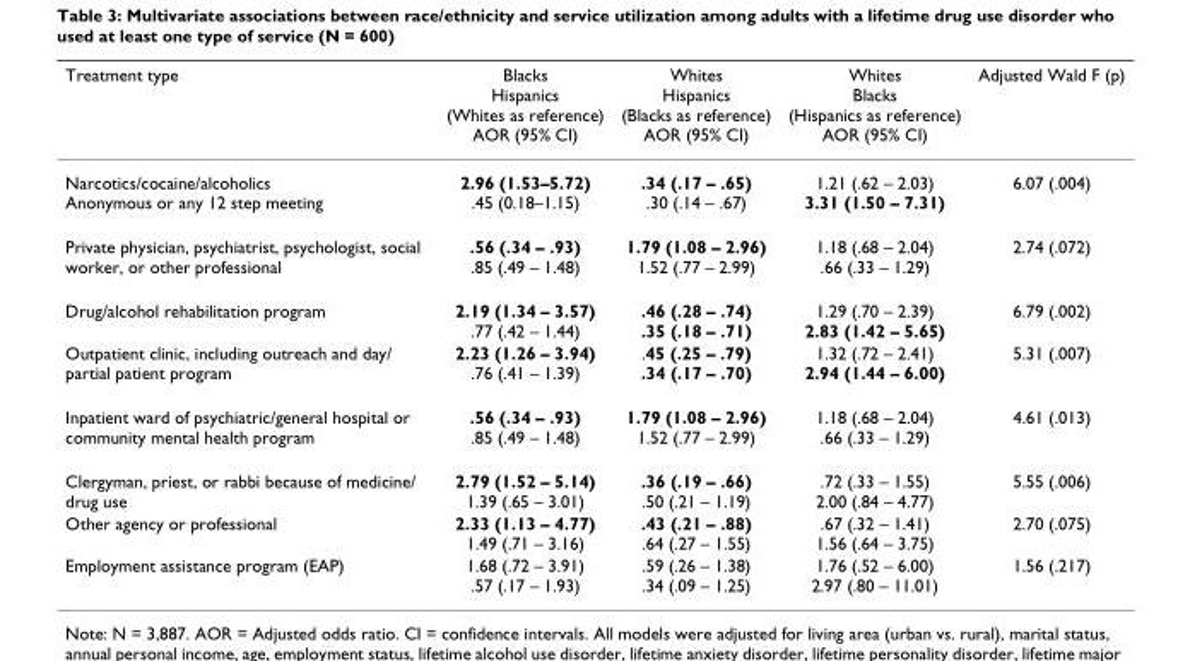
<table><thead><tr><td>Treatment type</td><td>Blacks Hispanics (Whites as reference) AOR (95% CI)</td><td>Whites Hispanics (Blacks as reference) AOR (95% CI)</td><td>Whites Blacks (Hispanics as reference) AOR (95% CI)</td><td>Adjusted Wald F (p)</td></tr></thead><tbody><tr><td>Narcotics/cocaine/alcoholics Anonymous or any 12 step meeting</td><td>2.96 (1.53–5.72) .45 (0.18–1.15)</td><td>.34 (.17 – .65) .30 (.14 – .67)</td><td>1.21 (.62 – 2.03) 3.31 (1.50 – 7.31)</td><td>6.07 (.004)</td></tr><tr><td>Private physician, psychiatrist, psychologist, social worker, or other professional</td><td>.56 (.34 – .93) .85 (.49 – 1.48)</td><td>1.79 (1.08 – 2.96) 1.52 (.77 – 2.99)</td><td>1.18 (.68 – 2.04) .66 (.33 – 1.29)</td><td>2.74 (.072)</td></tr><tr><td>Drug/alcohol rehabilitation program</td><td>2.19 (1.34 – 3.57) .77 (.42 – 1.44)</td><td>.46 (.28 – .74) .35 (.18 – .71)</td><td>1.29 (.70 – 2.39) 2.83 (1.42 – 5.65)</td><td>6.79 (.002)</td></tr><tr><td>Outpatient clinic, including outreach and day/ partial patient program</td><td>2.23 (1.26 – 3.94) .76 (.41 – 1.39)</td><td>.45 (.25 – .79) .34 (.17 – .70)</td><td>1.32 (.72 – 2.41) 2.94 (1.44 – 6.00)</td><td>5.31 (.007)</td></tr><tr><td>Inpatient ward of psychiatric/general hospital or community mental health program</td><td>.56 (.34 – .93) .85 (.49 – 1.48)</td><td>1.79 (1.08 – 2.96) 1.52 (.77 – 2.99)</td><td>1.18 (.68 – 2.04) .66 (.33 – 1.29)</td><td>4.61 (.013)</td></tr><tr><td>Clergyman, priest, or rabbi because of medicine/ drug use</td><td>2.79 (1.52 – 5.14) 1.39 (.65 – 3.01)</td><td>.36 (.19 – .66) .50 (.21 – 1.19)</td><td>.72 (.33 – 1.55) 2.00 (.84 – 4.77)</td><td>5.55 (.006)</td></tr><tr><td>Other agency or professional</td><td>2.33 (1.13 – 4.77) 1.49 (.71 – 3.16)</td><td>.43 (.21 – .88) .64 (.27 – 1.55)</td><td>.67 (.32 – 1.41) 1.56 (.64 – 3.75)</td><td>2.70 (.075)</td></tr><tr><td>Employment assistance program (EAP)</td><td>1.68 (.72 – 3.91) .57 (.17 – 1.93)</td><td>.59 (.26 – 1.38) .34 (.09 – 1.25)</td><td>1.76 (.52 – 6.00) 2.97 (.80 – 11.01)</td><td>1.56 (.217)</td></tr></tbody></table>